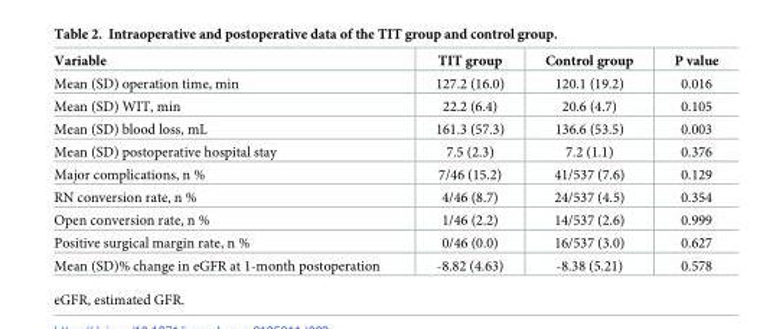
<table><thead><tr><td>Variable</td><td>TIT group</td><td>Control group</td><td>P value</td></tr></thead><tbody><tr><td>Mean (SD) operation time, min</td><td>127.2 (16.0)</td><td>120.1 (19.2)</td><td>0.016</td></tr><tr><td>Mean (SD) WIT, min</td><td>22.2 (6.4)</td><td>20.6 (4.7)</td><td>0.105</td></tr><tr><td>Mean (SD) blood loss, mL</td><td>161.3 (57.3)</td><td>136.6 (53.5)</td><td>0.003</td></tr><tr><td>Mean (SD) postoperative hospital stay</td><td>7.5 (2.3)</td><td>7.2 (1.1)</td><td>0.376</td></tr><tr><td>Major complications, n %</td><td>7/46 (15.2)</td><td>41/537 (7.6)</td><td>0.129</td></tr><tr><td>RN conversion rate, n %</td><td>4/46 (8.7)</td><td>24/537 (4.5)</td><td>0.354</td></tr><tr><td>Open conversion rate, n %</td><td>1/46 (2.2)</td><td>14/537 (2.6)</td><td>0.999</td></tr><tr><td>Positive surgical margin rate, n %</td><td>0/46 (0.0)</td><td>16/537 (3.0)</td><td>0.627</td></tr><tr><td>Mean (SD)% change in eGFR at 1-month postoperation</td><td>-8.82 (4.63)</td><td>-8.38 (5.21)</td><td>0.578</td></tr></tbody></table>